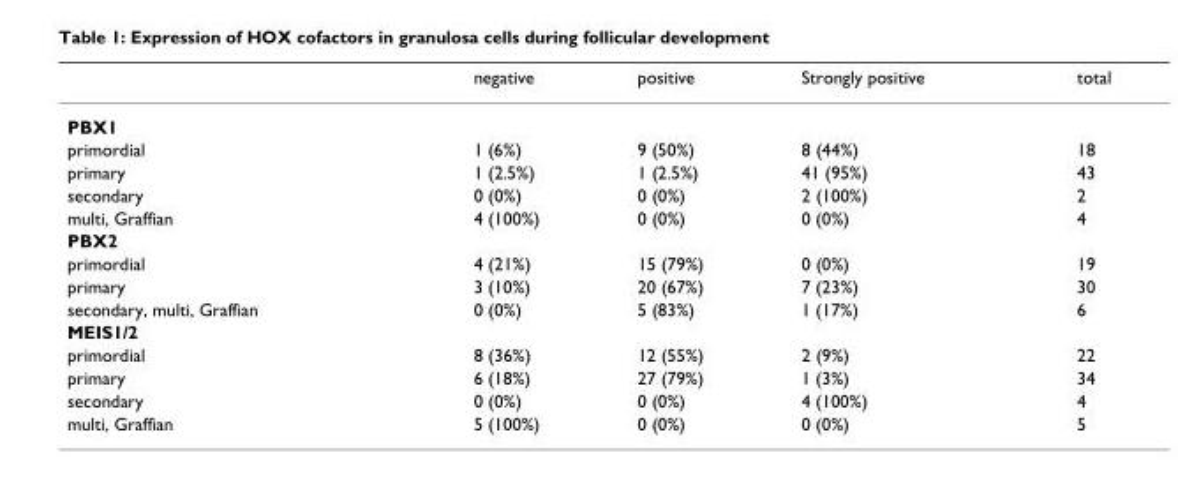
<table><thead><tr><td></td><td>negative</td><td>positive</td><td>Strongly positive</td><td>total</td></tr></thead><tbody><tr><td colspan="5">PBX1</td></tr><tr><td>primordial</td><td>1 (6%)</td><td>9 (50%)</td><td>8 (44%)</td><td>18</td></tr><tr><td>primary</td><td>1 (2.5%)</td><td>1 (2.5%)</td><td>41 (95%)</td><td>43</td></tr><tr><td>secondary</td><td>0 (0%)</td><td>0 (0%)</td><td>2 (100%)</td><td>2</td></tr><tr><td>multi, Graffian</td><td>4 (100%)</td><td>0 (0%)</td><td>0 (0%)</td><td>4</td></tr><tr><td colspan="5">PBX2</td></tr><tr><td>primordial</td><td>4 (21%)</td><td>15 (79%)</td><td>0 (0%)</td><td>19</td></tr><tr><td>primary</td><td>3 (10%)</td><td>20 (67%)</td><td>7 (23%)</td><td>30</td></tr><tr><td>secondary, multi, Graffian</td><td>0 (0%)</td><td>5 (83%)</td><td>1 (17%)</td><td>6</td></tr><tr><td colspan="5">MEIS1/2</td></tr><tr><td>primordial</td><td>8 (36%)</td><td>12 (55%)</td><td>2 (9%)</td><td>22</td></tr><tr><td>primary</td><td>6 (18%)</td><td>27 (79%)</td><td>1 (3%)</td><td>34</td></tr><tr><td>secondary</td><td>0 (0%)</td><td>0 (0%)</td><td>4 (100%)</td><td>4</td></tr><tr><td>multi, Graffian</td><td>5 (100%)</td><td>0 (0%)</td><td>0 (0%)</td><td>5</td></tr></tbody></table>